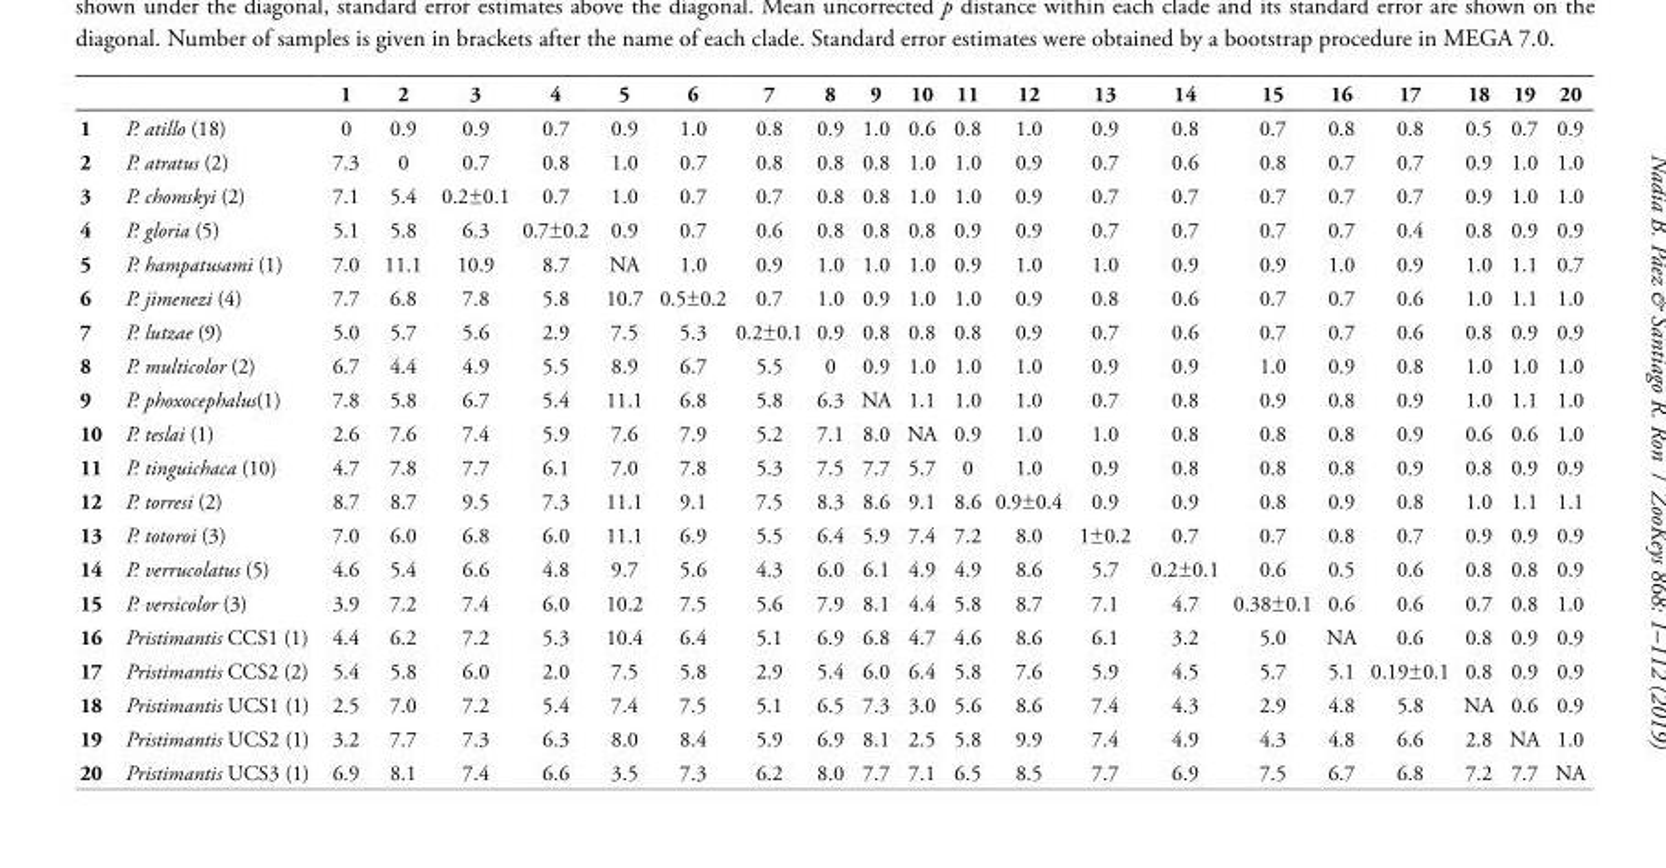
<table><thead><tr><td></td><td></td><td>1</td><td>2</td><td>3</td><td>4</td><td>5</td><td>6</td><td>7</td><td>8</td><td>9</td><td>10</td><td>11</td><td>12</td><td>13</td><td>14</td><td>15</td><td>16</td><td>17</td><td>18</td><td>19</td><td>20</td></tr></thead><tbody><tr><td>1</td><td>P. atillo (18)</td><td>0</td><td>0.9</td><td>0.9</td><td>0.7</td><td>0.9</td><td>1.0</td><td>0.8</td><td>0.9</td><td>1.0</td><td>0.6</td><td>0.8</td><td>1.0</td><td>0.9</td><td>0.8</td><td>0.7</td><td>0.8</td><td>0.8</td><td>0.5</td><td>0.7</td><td>0.9</td></tr><tr><td>2</td><td>P. atratus (2)</td><td>7.3</td><td>0</td><td>0.7</td><td>0.8</td><td>1.0</td><td>0.7</td><td>0.8</td><td>0.8</td><td>0.8</td><td>1.0</td><td>1.0</td><td>0.9</td><td>0.7</td><td>0.6</td><td>0.8</td><td>0.7</td><td>0.7</td><td>0.9</td><td>1.0</td><td>1.0</td></tr><tr><td>3</td><td>P. chomskyi (2)</td><td>7.1</td><td>5.4</td><td>0.2±0.1</td><td>0.7</td><td>1.0</td><td>0.7</td><td>0.7</td><td>0.8</td><td>0.8</td><td>1.0</td><td>1.0</td><td>0.9</td><td>0.7</td><td>0.7</td><td>0.7</td><td>0.7</td><td>0.7</td><td>0.9</td><td>1.0</td><td>1.0</td></tr><tr><td>4</td><td>P. gloria (5)</td><td>5.1</td><td>5.8</td><td>6.3</td><td>0.7±0.2</td><td>0.9</td><td>0.7</td><td>0.6</td><td>0.8</td><td>0.8</td><td>0.8</td><td>0.9</td><td>0.9</td><td>0.7</td><td>0.7</td><td>0.7</td><td>0.7</td><td>0.4</td><td>0.8</td><td>0.9</td><td>0.9</td></tr><tr><td>5</td><td>P. hampatusami (1)</td><td>7.0</td><td>11.1</td><td>10.9</td><td>8.7</td><td>NA</td><td>1.0</td><td>0.9</td><td>1.0</td><td>1.0</td><td>1.0</td><td>0.9</td><td>1.0</td><td>1.0</td><td>0.9</td><td>0.9</td><td>1.0</td><td>0.9</td><td>1.0</td><td>1.1</td><td>0.7</td></tr><tr><td>6</td><td>P. jimenezi (4)</td><td>7.7</td><td>6.8</td><td>7.8</td><td>5.8</td><td>10.7</td><td>0.5±0.2</td><td>0.7</td><td>1.0</td><td>0.9</td><td>1.0</td><td>1.0</td><td>0.9</td><td>0.8</td><td>0.6</td><td>0.7</td><td>0.7</td><td>0.6</td><td>1.0</td><td>1.1</td><td>1.0</td></tr><tr><td>7</td><td>P. lutzae (9)</td><td>5.0</td><td>5.7</td><td>5.6</td><td>2.9</td><td>7.5</td><td>5.3</td><td>0.2±0.1</td><td>0.9</td><td>0.8</td><td>0.8</td><td>0.8</td><td>0.9</td><td>0.7</td><td>0.6</td><td>0.7</td><td>0.7</td><td>0.6</td><td>0.8</td><td>0.9</td><td>0.9</td></tr><tr><td>8</td><td>P. multicolor (2)</td><td>6.7</td><td>4.4</td><td>4.9</td><td>5.5</td><td>8.9</td><td>6.7</td><td>5.5</td><td>0</td><td>0.9</td><td>1.0</td><td>1.0</td><td>1.0</td><td>0.9</td><td>0.9</td><td>1.0</td><td>0.9</td><td>0.8</td><td>1.0</td><td>1.0</td><td>1.0</td></tr><tr><td>9</td><td>P. phoxocephalus(1)</td><td>7.8</td><td>5.8</td><td>6.7</td><td>5.4</td><td>11.1</td><td>6.8</td><td>5.8</td><td>6.3</td><td>NA</td><td>1.1</td><td>1.0</td><td>1.0</td><td>0.7</td><td>0.8</td><td>0.9</td><td>0.8</td><td>0.9</td><td>1.0</td><td>1.1</td><td>1.0</td></tr><tr><td>10</td><td>P. teslai (1)</td><td>2.6</td><td>7.6</td><td>7.4</td><td>5.9</td><td>7.6</td><td>7.9</td><td>5.2</td><td>7.1</td><td>8.0</td><td>NA</td><td>0.9</td><td>1.0</td><td>1.0</td><td>0.8</td><td>0.8</td><td>0.8</td><td>0.9</td><td>0.6</td><td>0.6</td><td>1.0</td></tr><tr><td>11</td><td>P. tinguichaca (10)</td><td>4.7</td><td>7.8</td><td>7.7</td><td>6.1</td><td>7.0</td><td>7.8</td><td>5.3</td><td>7.5</td><td>7.7</td><td>5.7</td><td>0</td><td>1.0</td><td>0.9</td><td>0.8</td><td>0.8</td><td>0.8</td><td>0.9</td><td>0.8</td><td>0.9</td><td>0.9</td></tr><tr><td>12</td><td>P. torresi (2)</td><td>8.7</td><td>8.7</td><td>9.5</td><td>7.3</td><td>11.1</td><td>9.1</td><td>7.5</td><td>8.3</td><td>8.6</td><td>9.1</td><td>8.6</td><td>0.9±0.4</td><td>0.9</td><td>0.9</td><td>0.8</td><td>0.9</td><td>0.8</td><td>1.0</td><td>1.1</td><td>1.1</td></tr><tr><td>13</td><td>P. totoroi (3)</td><td>7.0</td><td>6.0</td><td>6.8</td><td>6.0</td><td>11.1</td><td>6.9</td><td>5.5</td><td>6.4</td><td>5.9</td><td>7.4</td><td>7.2</td><td>8.0</td><td>1±0.2</td><td>0.7</td><td>0.7</td><td>0.8</td><td>0.7</td><td>0.9</td><td>0.9</td><td>0.9</td></tr><tr><td>14</td><td>P. verrucolatus (5)</td><td>4.6</td><td>5.4</td><td>6.6</td><td>4.8</td><td>9.7</td><td>5.6</td><td>4.3</td><td>6.0</td><td>6.1</td><td>4.9</td><td>4.9</td><td>8.6</td><td>5.7</td><td>0.2±0.1</td><td>0.6</td><td>0.5</td><td>0.6</td><td>0.8</td><td>0.8</td><td>0.9</td></tr><tr><td>15</td><td>P. versicolor (3)</td><td>3.9</td><td>7.2</td><td>7.4</td><td>6.0</td><td>10.2</td><td>7.5</td><td>5.6</td><td>7.9</td><td>8.1</td><td>4.4</td><td>5.8</td><td>8.7</td><td>7.1</td><td>4.7</td><td>0.38±0.1</td><td>0.6</td><td>0.6</td><td>0.7</td><td>0.8</td><td>1.0</td></tr><tr><td>16</td><td>Pristimantis CCS1 (1)</td><td>4.4</td><td>6.2</td><td>7.2</td><td>5.3</td><td>10.4</td><td>6.4</td><td>5.1</td><td>6.9</td><td>6.8</td><td>4.7</td><td>4.6</td><td>8.6</td><td>6.1</td><td>3.2</td><td>5.0</td><td>NA</td><td>0.6</td><td>0.8</td><td>0.9</td><td>0.9</td></tr><tr><td>17</td><td>Pristimantis CCS2 (2)</td><td>5.4</td><td>5.8</td><td>6.0</td><td>2.0</td><td>7.5</td><td>5.8</td><td>2.9</td><td>5.4</td><td>6.0</td><td>6.4</td><td>5.8</td><td>7.6</td><td>5.9</td><td>4.5</td><td>5.7</td><td>5.1</td><td>0.19±0.1</td><td>0.8</td><td>0.9</td><td>0.9</td></tr><tr><td>18</td><td>Pristimantis UCS1 (1)</td><td>2.5</td><td>7.0</td><td>7.2</td><td>5.4</td><td>7.4</td><td>7.5</td><td>5.1</td><td>6.5</td><td>7.3</td><td>3.0</td><td>5.6</td><td>8.6</td><td>7.4</td><td>4.3</td><td>2.9</td><td>4.8</td><td>5.8</td><td>NA</td><td>0.6</td><td>0.9</td></tr><tr><td>19</td><td>Pristimantis UCS2 (1)</td><td>3.2</td><td>7.7</td><td>7.3</td><td>6.3</td><td>8.0</td><td>8.4</td><td>5.9</td><td>6.9</td><td>8.1</td><td>2.5</td><td>5.8</td><td>9.9</td><td>7.4</td><td>4.9</td><td>4.3</td><td>4.8</td><td>6.6</td><td>2.8</td><td>NA</td><td>1.0</td></tr><tr><td>20</td><td>Pristimantis UCS3 (1)</td><td>6.9</td><td>8.1</td><td>7.4</td><td>6.6</td><td>3.5</td><td>7.3</td><td>6.2</td><td>8.0</td><td>7.7</td><td>7.1</td><td>6.5</td><td>8.5</td><td>7.7</td><td>6.9</td><td>7.5</td><td>6.7</td><td>6.8</td><td>7.2</td><td>7.7</td><td>NA</td></tr></tbody></table>